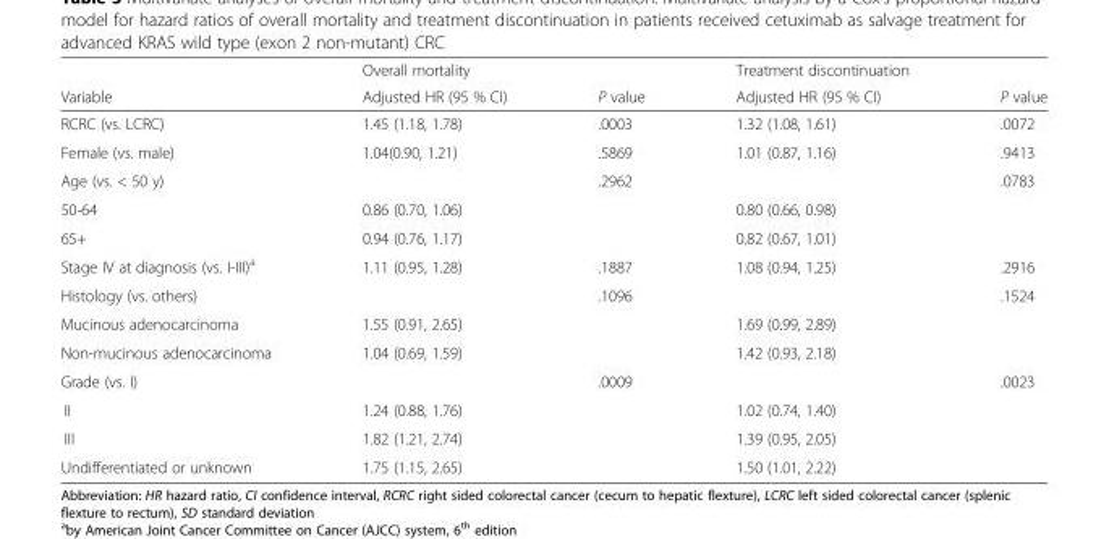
<table><thead><tr><td rowspan="2">Variable</td><td rowspan="2">Overall mortality Adjusted HR (95 % CI)</td><td rowspan="2">P value</td><td rowspan="2">Treatment discontinuation Adjusted HR (95 % CI)</td><td rowspan="2">P value</td></tr><tr></tr></thead><tbody><tr><td>RCRC (vs. LCRC)</td><td>1.45 (1.18, 1.78)</td><td>.0003</td><td>1.32 (1.08, 1.61)</td><td>.0072</td></tr><tr><td>Female (vs. male)</td><td>1.04(0.90, 1.21)</td><td>.5869</td><td>1.01 (0.87, 1.16)</td><td>.9413</td></tr><tr><td>Age (vs. &lt; 50 y)</td><td></td><td>.2962</td><td></td><td>.0783</td></tr><tr><td>50-64</td><td>0.86 (0.70, 1.06)</td><td></td><td>0.80 (0.66, 0.98)</td><td></td></tr><tr><td>65+</td><td>0.94 (0.76, 1.17)</td><td></td><td>0.82 (0.67, 1.01)</td><td></td></tr><tr><td>Stage IV at diagnosis (vs. I-III)<sup>a</sup></td><td>1.11 (0.95, 1.28)</td><td>.1887</td><td>1.08 (0.94, 1.25)</td><td>.2916</td></tr><tr><td>Histology (vs. others)</td><td></td><td>.1096</td><td></td><td>.1524</td></tr><tr><td>Mucinous adenocarcinoma</td><td>1.55 (0.91, 2.65)</td><td></td><td>1.69 (0.99, 2.89)</td><td></td></tr><tr><td>Non-mucinous adenocarcinoma</td><td>1.04 (0.69, 1.59)</td><td></td><td>1.42 (0.93, 2.18)</td><td></td></tr><tr><td>Grade (vs. I)</td><td></td><td>.0009</td><td></td><td>.0023</td></tr><tr><td>II</td><td>1.24 (0.88, 1.76)</td><td></td><td>1.02 (0.74, 1.40)</td><td></td></tr><tr><td>III</td><td>1.82 (1.21, 2.74)</td><td></td><td>1.39 (0.95, 2.05)</td><td></td></tr><tr><td>Undifferentiated or unknown</td><td>1.75 (1.15, 2.65)</td><td></td><td>1.50 (1.01, 2.22)</td><td></td></tr></tbody></table>